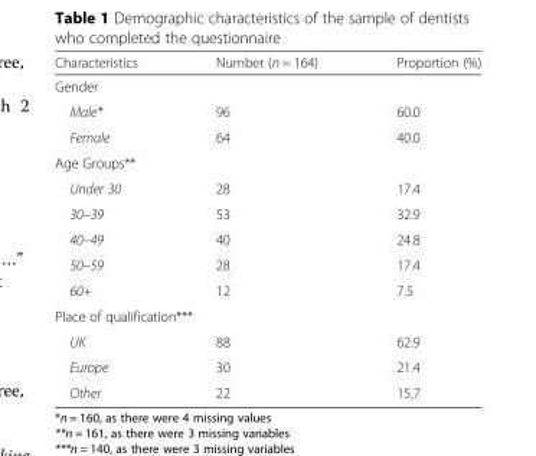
<table><thead><tr><td>Characteristics</td><td>Number (n = 164)</td><td>Proportion (%)</td></tr></thead><tbody><tr><td colspan="3">Gender</td></tr><tr><td>Male*</td><td>96</td><td>60.0</td></tr><tr><td>Female</td><td>64</td><td>40.0</td></tr><tr><td colspan="3">Age Groups**</td></tr><tr><td>Under 30</td><td>28</td><td>17.4</td></tr><tr><td>30–39</td><td>53</td><td>32.9</td></tr><tr><td>40–49</td><td>40</td><td>24.8</td></tr><tr><td>50–59</td><td>28</td><td>17.4</td></tr><tr><td>60+</td><td>12</td><td>7.5</td></tr><tr><td colspan="3">Place of qualification***</td></tr><tr><td>UK</td><td>88</td><td>62.9</td></tr><tr><td>Europe</td><td>30</td><td>21.4</td></tr><tr><td>Other</td><td>22</td><td>15.7</td></tr></tbody></table>